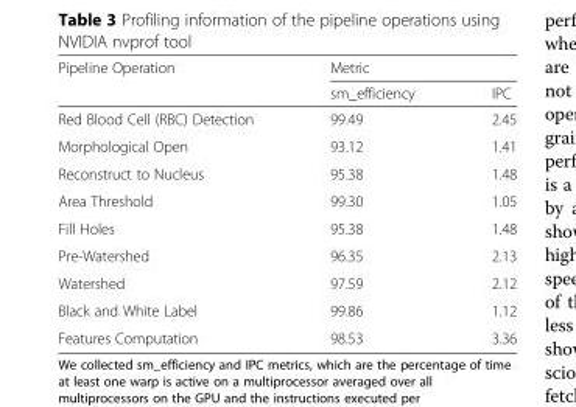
<table><thead><tr><td rowspan="2">Pipeline Operation</td><td colspan="2">Metric</td></tr><tr><td>sm_efficiency</td><td>IPC</td></tr></thead><tbody><tr><td>Red Blood Cell (RBC) Detection</td><td>99.49</td><td>2.45</td></tr><tr><td>Morphological Open</td><td>93.12</td><td>1.41</td></tr><tr><td>Reconstruct to Nucleus</td><td>95.38</td><td>1.48</td></tr><tr><td>Area Threshold</td><td>99.30</td><td>1.05</td></tr><tr><td>Fill Holes</td><td>95.38</td><td>1.48</td></tr><tr><td>Pre-Watershed</td><td>96.35</td><td>2.13</td></tr><tr><td>Watershed</td><td>97.59</td><td>2.12</td></tr><tr><td>Black and White Label</td><td>99.86</td><td>1.12</td></tr><tr><td>Features Computation</td><td>98.53</td><td>3.36</td></tr></tbody></table>